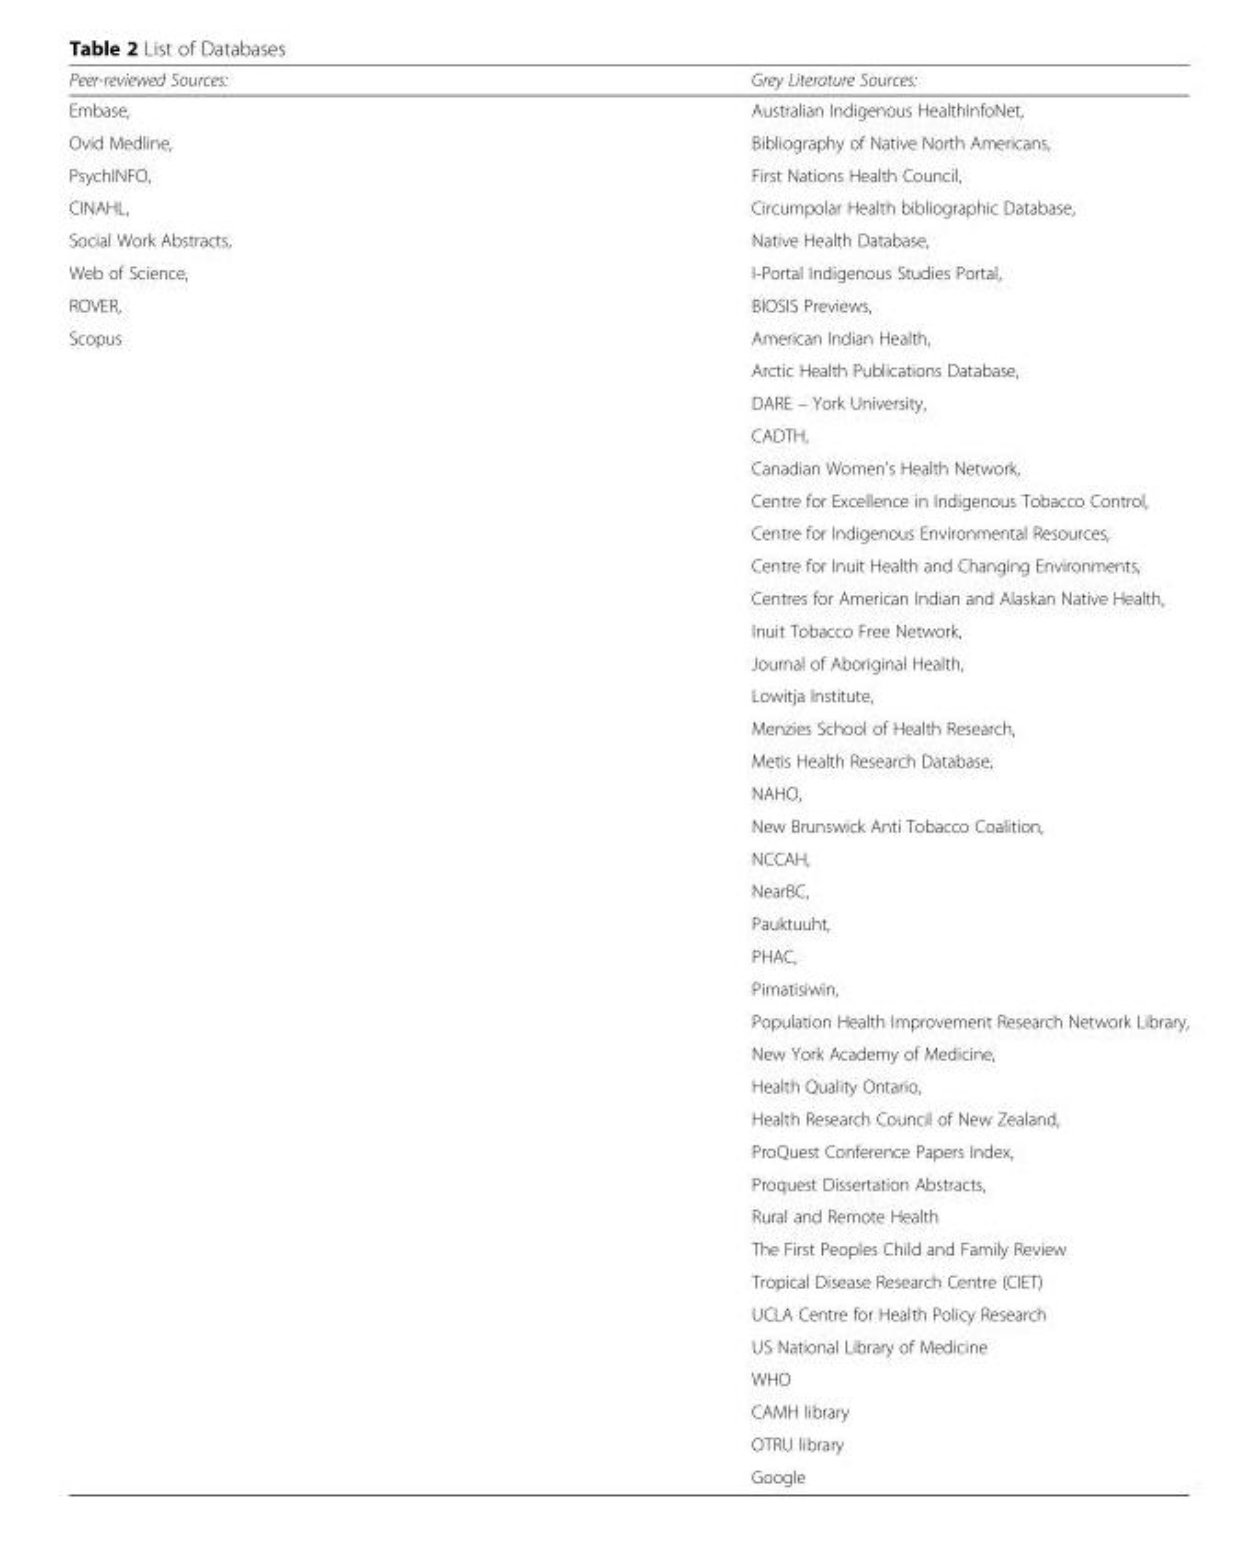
<table><thead><tr><td>Peer-reviewed Sources:</td><td>Grey Literature Sources:</td></tr></thead><tbody><tr><td>Embase,</td><td>Australian Indigenous HealthInfoNet,</td></tr><tr><td>Ovid Medline,</td><td>Bibliography of Native North Americans,</td></tr><tr><td>PsychINFO,</td><td>First Nations Health Council,</td></tr><tr><td>CINAHL,</td><td>Circumpolar Health bibliographic Database,</td></tr><tr><td>Social Work Abstracts,</td><td>Native Health Database,</td></tr><tr><td>Web of Science,</td><td>I-Portal Indigenous Studies Portal,</td></tr><tr><td>ROVER,</td><td>BIOSIS Previews,</td></tr><tr><td rowspan="36">Scopus</td><td>American Indian Health,</td></tr><tr><td>Arctic Health Publications Database,</td></tr><tr><td>DARE – York University,</td></tr><tr><td>CADTH,</td></tr><tr><td>Canadian Women&#x27;s Health Network,</td></tr><tr><td>Centre for Excellence in Indigenous Tobacco Control,</td></tr><tr><td>Centre for Indigenous Environmental Resources,</td></tr><tr><td>Centre for Inuit Health and Changing Environments,</td></tr><tr><td>Centres for American Indian and Alaskan Native Health,</td></tr><tr><td>Inuit Tobacco Free Network,</td></tr><tr><td>Journal of Aboriginal Health,</td></tr><tr><td>Lowitja Institute,</td></tr><tr><td>Menzies School of Health Research,</td></tr><tr><td>Metis Health Research Database,</td></tr><tr><td>NAHO,</td></tr><tr><td>New Brunswick Anti Tobacco Coalition,</td></tr><tr><td>NCCAH,</td></tr><tr><td>NearBC,</td></tr><tr><td>Pauktuuht,</td></tr><tr><td>PHAC,</td></tr><tr><td>Pimatisiwin,</td></tr><tr><td>Population Health Improvement Research Network Library,</td></tr><tr><td>New York Academy of Medicine,</td></tr><tr><td>Health Quality Ontario,</td></tr><tr><td>Health Research Council of New Zealand,</td></tr><tr><td>ProQuest Conference Papers Index,</td></tr><tr><td>Proquest Dissertation Abstracts,</td></tr><tr><td>Rural and Remote Health</td></tr><tr><td>The First Peoples Child and Family Review</td></tr><tr><td>Tropical Disease Research Centre (CIET)</td></tr><tr><td>UCLA Centre for Health Policy Research</td></tr><tr><td>US National Library of Medicine</td></tr><tr><td>WHO</td></tr><tr><td>CAMH library</td></tr><tr><td>OTRU library</td></tr><tr><td>Google</td></tr></tbody></table>